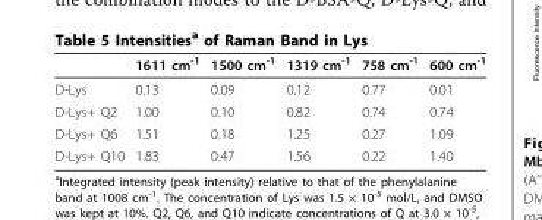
<table><thead><tr><td></td><td>1611 cm<sup>-1</sup></td><td>1500 cm<sup>-1</sup></td><td>1319 cm<sup>-1</sup></td><td>758 cm<sup>-1</sup></td><td>600 cm<sup>-1</sup></td></tr></thead><tbody><tr><td>D-Lys</td><td>0.13</td><td>0.09</td><td>0.12</td><td>0.77</td><td>0.01</td></tr><tr><td>D-Lys+ Q2</td><td>1.00</td><td>0.10</td><td>0.82</td><td>0.74</td><td>0.74</td></tr><tr><td>D-Lys+ Q6</td><td>1.51</td><td>0.18</td><td>1.25</td><td>0.27</td><td>1.09</td></tr><tr><td>D-Lys+ Q10</td><td>1.83</td><td>0.47</td><td>1.56</td><td>0.22</td><td>1.40</td></tr></tbody></table>